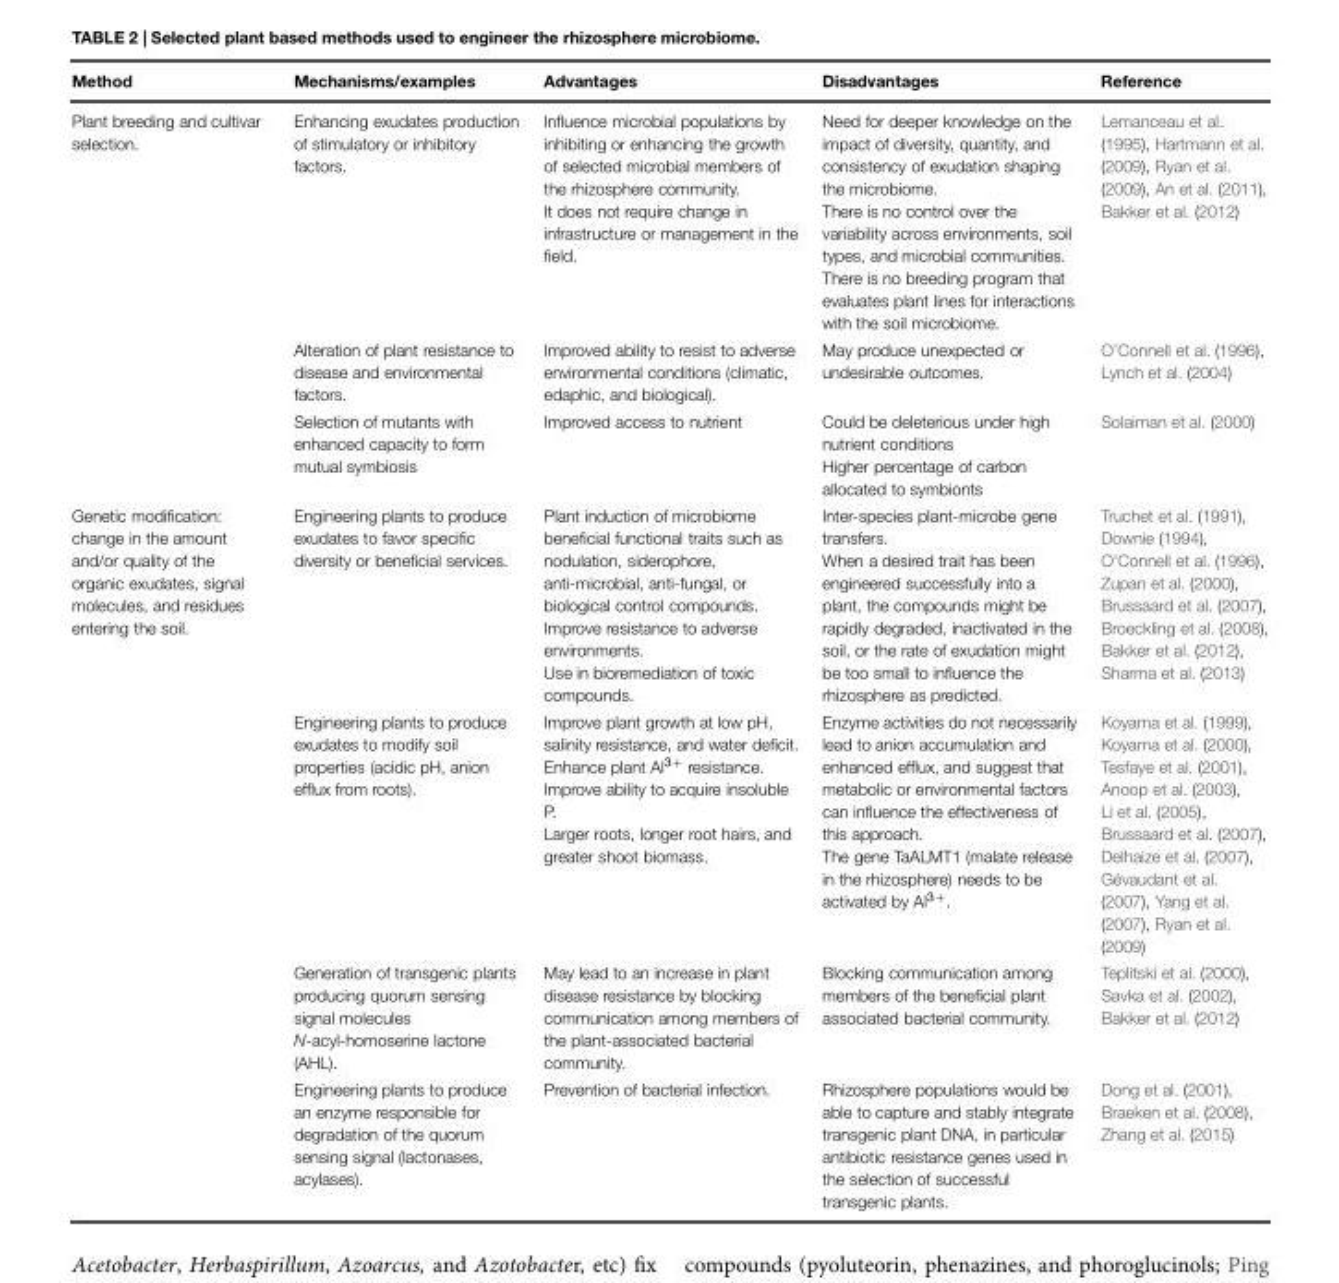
<table><thead><tr><td>Method</td><td>Mechanisms/examples</td><td>Advantages</td><td>Disadvantages</td><td>Reference</td></tr></thead><tbody><tr><td rowspan="3">Plant breeding and cultivar selection.</td><td>Enhancing exudates production of stimulatory or inhibitory factors.</td><td>Influence microbial populations by inhibiting or enhancing the growth of selected microbial members of the rhizosphere community. It does not require change in infrastructure or management in the field.</td><td>Need for deeper knowledge on the impact of diversity, quantity, and consistency of exudation shaping the microbiome. There is no control over the variability across environments, soil types, and microbial communities. There is no breeding program that evaluates plant lines for interactions with the soil microbiome.</td><td>Lemanceau et al. (1995), Hartmann et al. (2009), Ryan et al. (2009), An et al. (2011), Bakker et al. (2012)</td></tr><tr><td>Alteration of plant resistance to disease and environmental factors.</td><td>Improved ability to resist to adverse environmental conditions (climatic, edaphic, and biological).</td><td>May produce unexpected or undesirable outcomes.</td><td>O’Connell et al. (1996), Lynch et al. (2004)</td></tr><tr><td>Selection of mutants with enhanced capacity to form mutual symbiosis</td><td>Improved access to nutrient</td><td>Could be deleterious under high nutrient conditions Higher percentage of carbon allocated to symbionts</td><td>Solaiman et al. (2000)</td></tr><tr><td rowspan="4">Genetic modification: change in the amount and/or quality of the organic exudates, signal molecules, and residues entering the soil.</td><td>Engineering plants to produce exudates to favor specific diversity or beneficial services.</td><td>Plant induction of microbiome beneficial functional traits such as nodulation, siderophore, anti-microbial, anti-fungal, or biological control compounds. Improve resistance to adverse environments. Use in bioremediation of toxic compounds.</td><td>Inter-species plant-microbe gene transfers. When a desired trait has been engineered successfully into a plant, the compounds might be rapidly degraded, inactivated in the soil, or the rate of exudation might be too small to influence the rhizosphere as predicted.</td><td>Truchet et al. (1991), Downie (1994), O’Connell et al. (1996), Zupan et al. (2000), Brussaard et al. (2007), Broeckling et al. (2008), Bakker et al. (2012), Sharma et al. (2013)</td></tr><tr><td>Engineering plants to produce exudates to modify soil properties (acidic pH, anion efflux from roots).</td><td>Improve plant growth at low pH, salinity resistance, and water deficit. Enhance plant Al<sup>3+</sup> resistance. Improve ability to acquire insoluble P. Larger roots, longer root hairs, and greater shoot biomass.</td><td>Enzyme activities do not necessarily lead to anion accumulation and enhanced efflux, and suggest that metabolic or environmental factors can influence the effectiveness of this approach. The gene TaALMT1 (malate release in the rhizosphere) needs to be activated by Al<sup>3+</sup>.</td><td>Koyama et al. (1999), Koyama et al. (2000), Tesfaye et al. (2001), Anoop et al. (2003), Li et al. (2005), Brussaard et al. (2007), Delhaize et al. (2007), Gévaudant et al. (2007), Yang et al. (2007), Ryan et al. (2009)</td></tr><tr><td>Generation of transgenic plants producing quorum sensing signal molecules N-acyl-homoserine lactone (AHL).</td><td>May lead to an increase in plant disease resistance by blocking communication among members of the plant-associated bacterial community.</td><td>Blocking communication among members of the beneficial plant associated bacterial community.</td><td>Teplitski et al. (2000), Savka et al. (2002), Bakker et al. (2012)</td></tr><tr><td>Engineering plants to produce an enzyme responsible for degradation of the quorum sensing signal (lactonases, acylases).</td><td>Prevention of bacterial infection.</td><td>Rhizosphere populations would be able to capture and stably integrate transgenic plant DNA, in particular antibiotic resistance genes used in the selection of successful transgenic plants.</td><td>Dong et al. (2001), Braeken et al. (2008), Zhang et al. (2015)</td></tr></tbody></table>